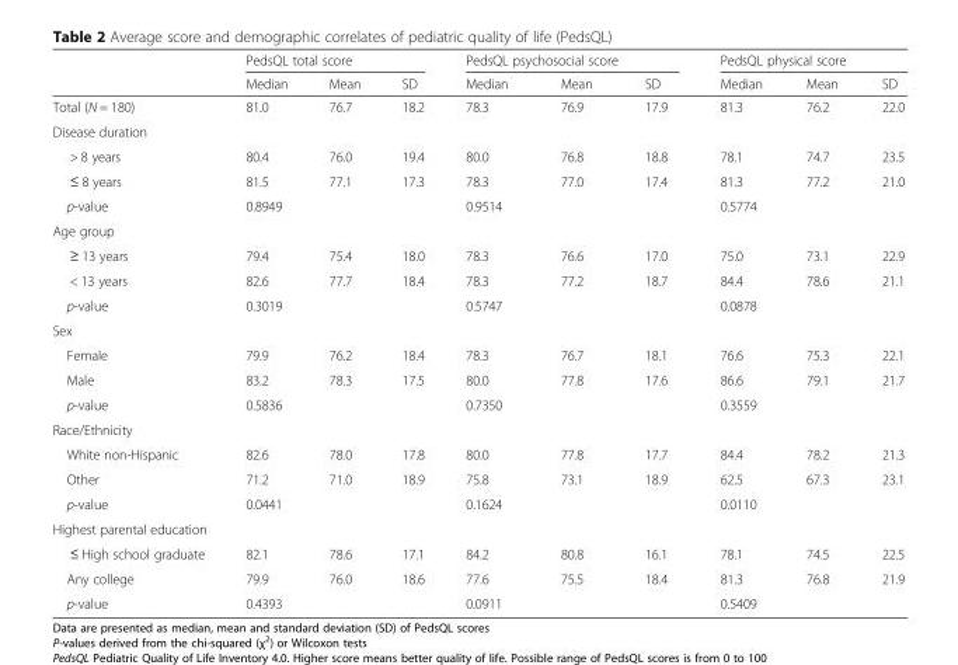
<table><thead><tr><td rowspan="2"></td><td colspan="3">PedsQL total score</td><td colspan="3">PedsQL psychosocial score</td><td colspan="3">PedsQL physical score</td></tr><tr><td>Median</td><td>Mean</td><td>SD</td><td>Median</td><td>Mean</td><td>SD</td><td>Median</td><td>Mean</td><td>SD</td></tr></thead><tbody><tr><td>Total (N = 180)</td><td>81.0</td><td>76.7</td><td>18.2</td><td>78.3</td><td>76.9</td><td>17.9</td><td>81.3</td><td>76.2</td><td>22.0</td></tr><tr><td colspan="10">Disease duration</td></tr><tr><td>&gt; 8 years</td><td>80.4</td><td>76.0</td><td>19.4</td><td>80.0</td><td>76.8</td><td>18.8</td><td>78.1</td><td>74.7</td><td>23.5</td></tr><tr><td>≤ 8 years</td><td>81.5</td><td>77.1</td><td>17.3</td><td>78.3</td><td>77.0</td><td>17.4</td><td>81.3</td><td>77.2</td><td>21.0</td></tr><tr><td>p-value</td><td colspan="3">0.8949</td><td colspan="3">0.9514</td><td colspan="3">0.5774</td></tr><tr><td colspan="10">Age group</td></tr><tr><td>≥ 13 years</td><td>79.4</td><td>75.4</td><td>18.0</td><td>78.3</td><td>76.6</td><td>17.0</td><td>75.0</td><td>73.1</td><td>22.9</td></tr><tr><td>&lt; 13 years</td><td>82.6</td><td>77.7</td><td>18.4</td><td>78.3</td><td>77.2</td><td>18.7</td><td>84.4</td><td>78.6</td><td>21.1</td></tr><tr><td>p-value</td><td colspan="3">0.3019</td><td colspan="3">0.5747</td><td colspan="3">0.0878</td></tr><tr><td colspan="10">Sex</td></tr><tr><td>Female</td><td>79.9</td><td>76.2</td><td>18.4</td><td>78.3</td><td>76.7</td><td>18.1</td><td>76.6</td><td>75.3</td><td>22.1</td></tr><tr><td>Male</td><td>83.2</td><td>78.3</td><td>17.5</td><td>80.0</td><td>77.8</td><td>17.6</td><td>86.6</td><td>79.1</td><td>21.7</td></tr><tr><td>p-value</td><td colspan="3">0.5836</td><td colspan="3">0.7350</td><td colspan="3">0.3559</td></tr><tr><td colspan="10">Race/Ethnicity</td></tr><tr><td>White non-Hispanic</td><td>82.6</td><td>78.0</td><td>17.8</td><td>80.0</td><td>77.8</td><td>17.7</td><td>84.4</td><td>78.2</td><td>21.3</td></tr><tr><td>Other</td><td>71.2</td><td>71.0</td><td>18.9</td><td>75.8</td><td>73.1</td><td>18.9</td><td>62.5</td><td>67.3</td><td>23.1</td></tr><tr><td>p-value</td><td colspan="3">0.0441</td><td colspan="3">0.1624</td><td colspan="3">0.0110</td></tr><tr><td colspan="10">Highest parental education</td></tr><tr><td>≤ High school graduate</td><td>82.1</td><td>78.6</td><td>17.1</td><td>84.2</td><td>80.8</td><td>16.1</td><td>78.1</td><td>74.5</td><td>22.5</td></tr><tr><td>Any college</td><td>79.9</td><td>76.0</td><td>18.6</td><td>77.6</td><td>75.5</td><td>18.4</td><td>81.3</td><td>76.8</td><td>21.9</td></tr><tr><td>p-value</td><td colspan="3">0.4393</td><td colspan="3">0.0911</td><td colspan="3">0.5409</td></tr></tbody></table>